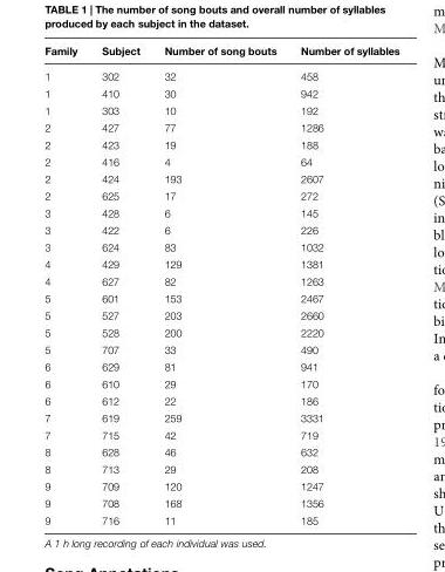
<table><thead><tr><td>Family</td><td>Subject</td><td>Number of song bouts</td><td>Number of syllables</td></tr></thead><tbody><tr><td>1</td><td>302</td><td>32</td><td>458</td></tr><tr><td>1</td><td>410</td><td>30</td><td>942</td></tr><tr><td>1</td><td>303</td><td>10</td><td>192</td></tr><tr><td>2</td><td>427</td><td>77</td><td>1286</td></tr><tr><td>2</td><td>423</td><td>19</td><td>188</td></tr><tr><td>2</td><td>416</td><td>4</td><td>64</td></tr><tr><td>2</td><td>424</td><td>193</td><td>2607</td></tr><tr><td>2</td><td>625</td><td>17</td><td>272</td></tr><tr><td>3</td><td>428</td><td>6</td><td>145</td></tr><tr><td>3</td><td>422</td><td>6</td><td>226</td></tr><tr><td>3</td><td>624</td><td>83</td><td>1032</td></tr><tr><td>4</td><td>429</td><td>129</td><td>1381</td></tr><tr><td>4</td><td>627</td><td>82</td><td>1263</td></tr><tr><td>5</td><td>601</td><td>153</td><td>2467</td></tr><tr><td>5</td><td>527</td><td>203</td><td>2660</td></tr><tr><td>5</td><td>528</td><td>200</td><td>2220</td></tr><tr><td>5</td><td>707</td><td>33</td><td>490</td></tr><tr><td>6</td><td>629</td><td>81</td><td>941</td></tr><tr><td>6</td><td>610</td><td>29</td><td>170</td></tr><tr><td>6</td><td>612</td><td>22</td><td>186</td></tr><tr><td>7</td><td>619</td><td>259</td><td>3331</td></tr><tr><td>7</td><td>715</td><td>42</td><td>719</td></tr><tr><td>8</td><td>628</td><td>46</td><td>632</td></tr><tr><td>8</td><td>713</td><td>29</td><td>208</td></tr><tr><td>9</td><td>709</td><td>120</td><td>1247</td></tr><tr><td>9</td><td>708</td><td>168</td><td>1356</td></tr><tr><td>9</td><td>716</td><td>11</td><td>185</td></tr></tbody></table>